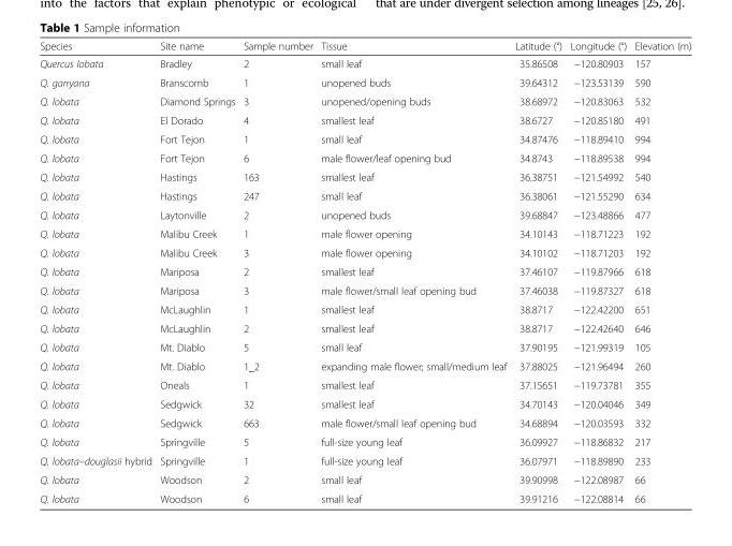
<table><thead><tr><td>Species</td><td>Site name</td><td>Sample number</td><td>Tissue</td><td>Latitude (°)</td><td>Longitude (°)</td><td>Elevation (m)</td></tr></thead><tbody><tr><td>Quercus lobata</td><td>Bradley</td><td>2</td><td>small leaf</td><td>35.86508</td><td>−120.80903</td><td>157</td></tr><tr><td>Q. garryana</td><td>Branscomb</td><td>1</td><td>unopened buds</td><td>39.64312</td><td>−123.53139</td><td>590</td></tr><tr><td>Q. lobata</td><td>Diamond Springs</td><td>3</td><td>unopened/opening buds</td><td>38.68972</td><td>−120.83063</td><td>532</td></tr><tr><td>Q. lobata</td><td>El Dorado</td><td>4</td><td>smallest leaf</td><td>38.6727</td><td>−120.85180</td><td>491</td></tr><tr><td>Q. lobata</td><td>Fort Tejon</td><td>1</td><td>small leaf</td><td>34.87476</td><td>−118.89410</td><td>994</td></tr><tr><td>Q. lobata</td><td>Fort Tejon</td><td>6</td><td>male flower/leaf opening bud</td><td>34.8743</td><td>−118.89538</td><td>994</td></tr><tr><td>Q. lobata</td><td>Hastings</td><td>163</td><td>smallest leaf</td><td>36.38751</td><td>−121.54992</td><td>540</td></tr><tr><td>Q. lobata</td><td>Hastings</td><td>247</td><td>small leaf</td><td>36.38061</td><td>−121.55290</td><td>634</td></tr><tr><td>Q. lobata</td><td>Laytonville</td><td>2</td><td>unopened buds</td><td>39.68847</td><td>−123.48866</td><td>477</td></tr><tr><td>Q. lobata</td><td>Malibu Creek</td><td>1</td><td>male flower opening</td><td>34.10143</td><td>−118.71223</td><td>192</td></tr><tr><td>Q. lobata</td><td>Malibu Creek</td><td>3</td><td>male flower opening</td><td>34.10102</td><td>−118.71203</td><td>192</td></tr><tr><td>Q. lobata</td><td>Mariposa</td><td>2</td><td>smallest leaf</td><td>37.46107</td><td>−119.87966</td><td>618</td></tr><tr><td>Q. lobata</td><td>Mariposa</td><td>3</td><td>male flower/small leaf opening bud</td><td>37.46038</td><td>−119.87327</td><td>618</td></tr><tr><td>Q. lobata</td><td>McLaughlin</td><td>1</td><td>smallest leaf</td><td>38.8717</td><td>−122.42200</td><td>651</td></tr><tr><td>Q. lobata</td><td>McLaughlin</td><td>2</td><td>smallest leaf</td><td>38.8717</td><td>−122.42640</td><td>646</td></tr><tr><td>Q. lobata</td><td>Mt. Diablo</td><td>5</td><td>small leaf</td><td>37.90195</td><td>−121.99319</td><td>105</td></tr><tr><td>Q. lobata</td><td>Mt. Diablo</td><td>1_2</td><td>expanding male flower; small/medium leaf</td><td>37.88025</td><td>−121.96494</td><td>260</td></tr><tr><td>Q. lobata</td><td>Oneals</td><td>1</td><td>smallest leaf</td><td>37.15651</td><td>−119.73781</td><td>355</td></tr><tr><td>Q. lobata</td><td>Sedgwick</td><td>32</td><td>smallest leaf</td><td>34.70143</td><td>−120.04046</td><td>349</td></tr><tr><td>Q. lobata</td><td>Sedgwick</td><td>663</td><td>male flower/small leaf opening bud</td><td>34.68894</td><td>−120.03593</td><td>332</td></tr><tr><td>Q. lobata</td><td>Springville</td><td>5</td><td>full-size young leaf</td><td>36.09927</td><td>−118.86832</td><td>217</td></tr><tr><td>Q. lobata–douglasii hybrid</td><td>Springville</td><td>1</td><td>full-size young leaf</td><td>36.07971</td><td>−118.89890</td><td>233</td></tr><tr><td>Q. lobata</td><td>Woodson</td><td>2</td><td>small leaf</td><td>39.90998</td><td>−122.08987</td><td>66</td></tr><tr><td>Q. lobata</td><td>Woodson</td><td>6</td><td>small leaf</td><td>39.91216</td><td>−122.08814</td><td>66</td></tr></tbody></table>